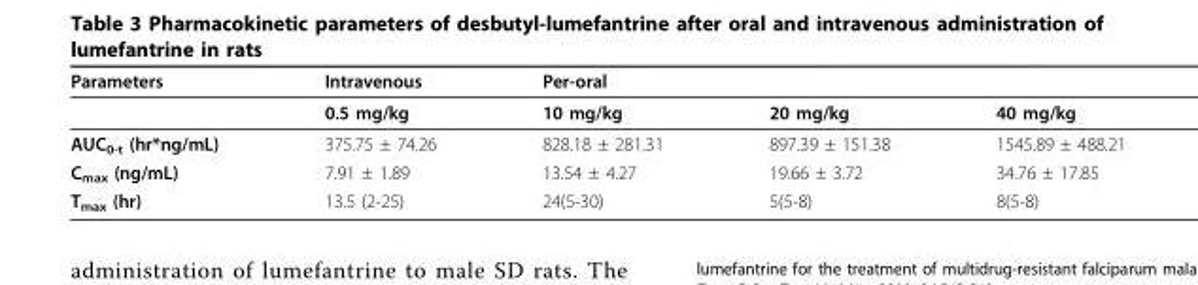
<table><thead><tr><td rowspan="2">Parameters</td><td rowspan="2">Intravenous 0.5 mg/kg</td><td colspan="3">Per-oral</td></tr><tr><td>10 mg/kg</td><td>20 mg/kg</td><td>40 mg/kg</td></tr></thead><tbody><tr><td>AUC<sub>0-t</sub> (hr*ng/mL)</td><td>375.75 ± 74.26</td><td>828.18 ± 281.31</td><td>897.39 ± 151.38</td><td>1545.89 ± 488.21</td></tr><tr><td>C<sub>max</sub> (ng/mL)</td><td>7.91 ± 1.89</td><td>13.54 ± 4.27</td><td>19.66 ± 3.72</td><td>34.76 ± 17.85</td></tr><tr><td>T<sub>max</sub> (hr)</td><td>13.5 (2-25)</td><td>24(5-30)</td><td>5(5-8)</td><td>8(5-8)</td></tr></tbody></table>